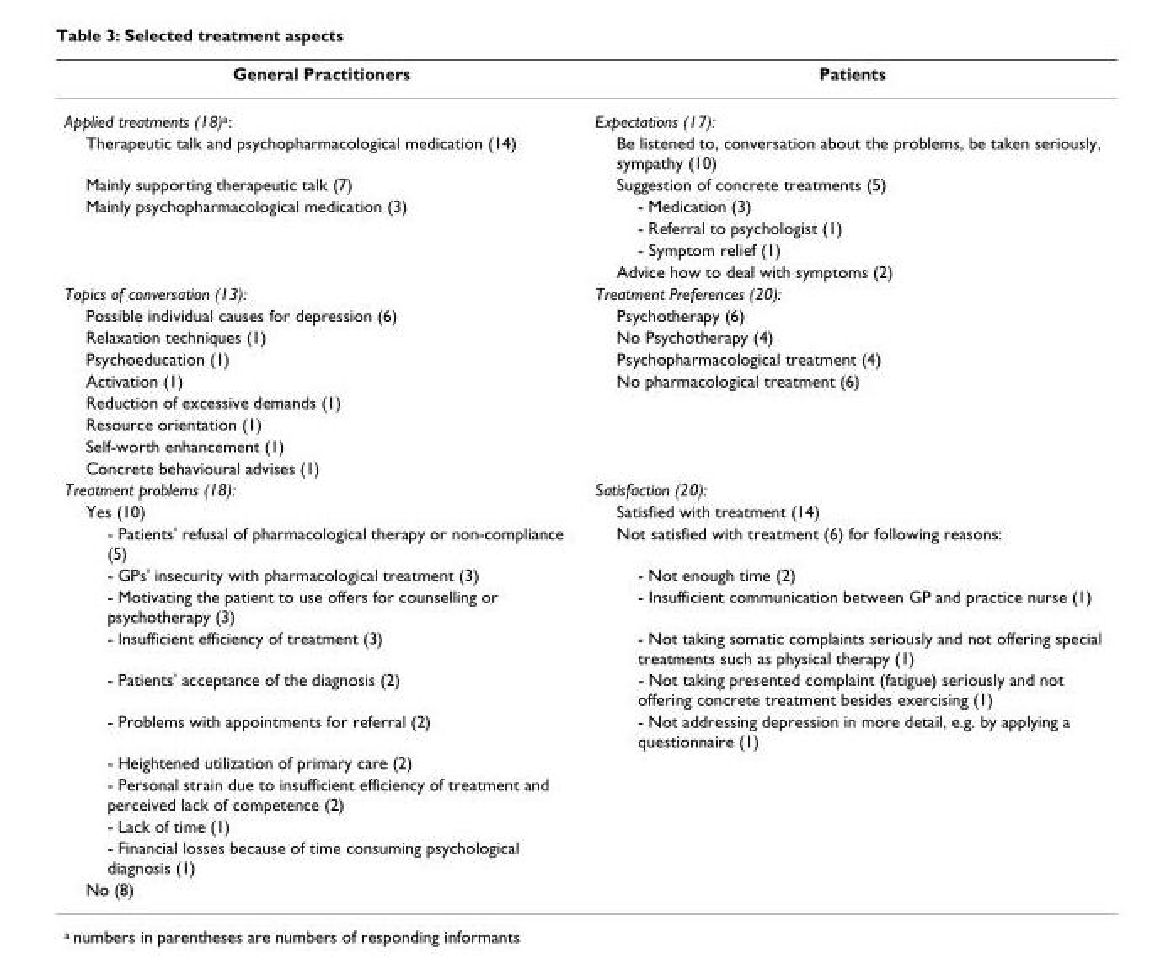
<table><thead><tr><td>General Practitioners</td><td>Patients</td></tr></thead><tbody><tr><td>Applied treatments (18)<sup>a</sup>:</td><td>Expectations (17):</td></tr><tr><td>Therapeutic talk and psychopharmacological medication (14)</td><td>Be listened to, conversation about the problems, be taken seriously, sympathy (10)</td></tr><tr><td>Mainly supporting therapeutic talk (7)</td><td>Suggestion of concrete treatments (5)</td></tr><tr><td rowspan="4">Mainly psychopharmacological medication (3)</td><td>- Medication (3)</td></tr><tr><td>- Referral to psychologist (1)</td></tr><tr><td>- Symptom relief (1)</td></tr><tr><td>Advice how to deal with symptoms (2)</td></tr><tr><td>Topics of conversation (13):</td><td>Treatment Preferences (20):</td></tr><tr><td>Possible individual causes for depression (6)</td><td>Psychotherapy (6)</td></tr><tr><td>Relaxation techniques (1)</td><td>No Psychotherapy (4)</td></tr><tr><td>Psychoeducation (1)</td><td>Psychopharmacological treatment (4)</td></tr><tr><td>Activation (1)</td><td>No pharmacological treatment (6)</td></tr><tr><td colspan="2">Reduction of excessive demands (1)</td></tr><tr><td colspan="2">Resource orientation (1)</td></tr><tr><td colspan="2">Self-worth enhancement (1)</td></tr><tr><td colspan="2">Concrete behavioural advises (1)</td></tr><tr><td>Treatment problems (18):</td><td>Satisfaction (20):</td></tr><tr><td>Yes (10)</td><td>Satisfied with treatment (14)</td></tr><tr><td>- Patients&#x27; refusal of pharmacological therapy or non-compliance (5)</td><td>Not satisfied with treatment (6) for following reasons:</td></tr><tr><td>- GPs&#x27; insecurity with pharmacological treatment (3)</td><td>- Not enough time (2)</td></tr><tr><td>- Motivating the patient to use offers for counselling or psychotherapy (3)</td><td>- Insufficient communication between GP and practice nurse (1)</td></tr><tr><td>- Insufficient efficiency of treatment (3)</td><td>- Not taking somatic complaints seriously and not offering special treatments such as physical therapy (1)</td></tr><tr><td>- Patients&#x27; acceptance of the diagnosis (2)</td><td>- Not taking presented complaint (fatigue) seriously and not offering concrete treatment besides exercising (1)</td></tr><tr><td>- Problems with appointments for referral (2)</td><td>- Not addressing depression in more detail, e.g. by applying a questionnaire (1)</td></tr><tr><td colspan="2">- Heightened utilization of primary care (2)</td></tr><tr><td colspan="2">- Personal strain due to insufficient efficiency of treatment and perceived lack of competence (2)</td></tr><tr><td colspan="2">- Lack of time (1)</td></tr><tr><td colspan="2">- Financial losses because of time consuming psychological diagnosis (1)</td></tr><tr><td>No (8)</td><td></td></tr></tbody></table>